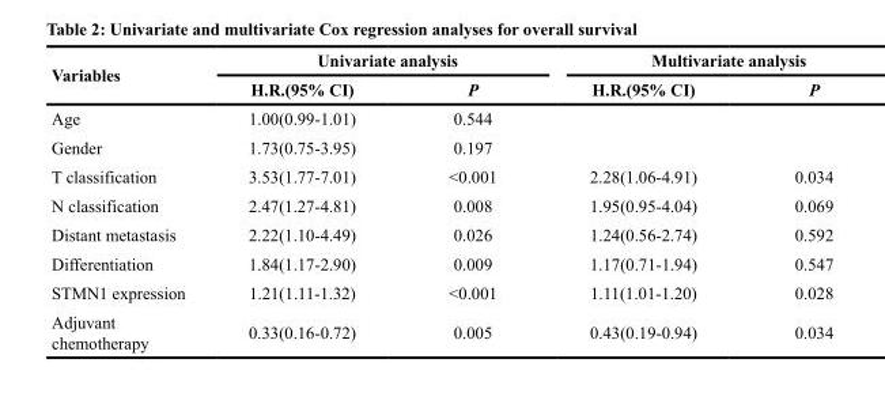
<table><thead><tr><td rowspan="2">Variables</td><td colspan="2">Univariate analysis</td><td colspan="2">Multivariate analysis</td></tr><tr><td>H.R.(95% CI)</td><td>P</td><td>H.R.(95% CI)</td><td>P</td></tr></thead><tbody><tr><td>Age</td><td>1.00(0.99-1.01)</td><td>0.544</td><td></td><td></td></tr><tr><td>Gender</td><td>1.73(0.75-3.95)</td><td>0.197</td><td></td><td></td></tr><tr><td>T classification</td><td>3.53(1.77-7.01)</td><td>&lt;0.001</td><td>2.28(1.06-4.91)</td><td>0.034</td></tr><tr><td>N classification</td><td>2.47(1.27-4.81)</td><td>0.008</td><td>1.95(0.95-4.04)</td><td>0.069</td></tr><tr><td>Distant metastasis</td><td>2.22(1.10-4.49)</td><td>0.026</td><td>1.24(0.56-2.74)</td><td>0.592</td></tr><tr><td>Differentiation</td><td>1.84(1.17-2.90)</td><td>0.009</td><td>1.17(0.71-1.94)</td><td>0.547</td></tr><tr><td>STMN1 expression</td><td>1.21(1.11-1.32)</td><td>&lt;0.001</td><td>1.11(1.01-1.20)</td><td>0.028</td></tr><tr><td>Adjuvant chemotherapy</td><td>0.33(0.16-0.72)</td><td>0.005</td><td>0.43(0.19-0.94)</td><td>0.034</td></tr></tbody></table>